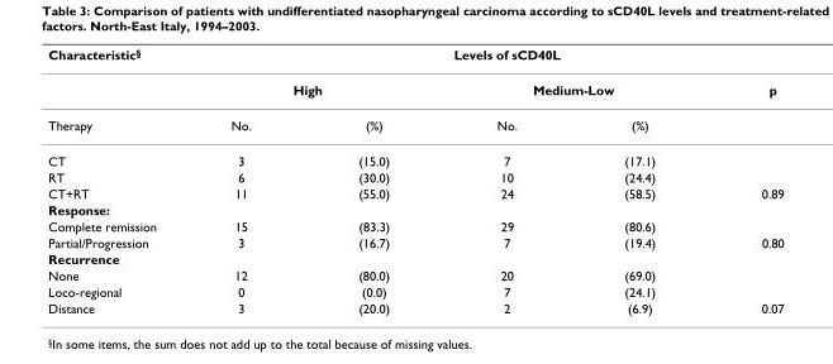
<table><thead><tr><td rowspan="3">Characteristic<sup>§</sup> Therapy</td><td colspan="5">Levels of sCD40L</td></tr><tr><td colspan="2">High</td><td colspan="2">Medium-Low</td><td rowspan="2">p</td></tr><tr><td>No.</td><td>(%)</td><td>No.</td><td>(%)</td></tr></thead><tbody><tr><td>CT</td><td>3</td><td>(15.0)</td><td>7</td><td>(17.1)</td><td></td></tr><tr><td>RT</td><td>6</td><td>(30.0)</td><td>10</td><td>(24.4)</td><td></td></tr><tr><td>CT+RT</td><td>11</td><td>(55.0)</td><td>24</td><td>(58.5)</td><td>0.89</td></tr><tr><td colspan="6">Response:</td></tr><tr><td>Complete remission</td><td>15</td><td>(83.3)</td><td>29</td><td>(80.6)</td><td></td></tr><tr><td>Partial/Progression</td><td>3</td><td>(16.7)</td><td>7</td><td>(19.4)</td><td>0.80</td></tr><tr><td colspan="6">Recurrence</td></tr><tr><td>None</td><td>12</td><td>(80.0)</td><td>20</td><td>(69.0)</td><td></td></tr><tr><td>Loco-regional</td><td>0</td><td>(0.0)</td><td>7</td><td>(24.1)</td><td></td></tr><tr><td>Distance</td><td>3</td><td>(20.0)</td><td>2</td><td>(6.9)</td><td>0.07</td></tr></tbody></table>